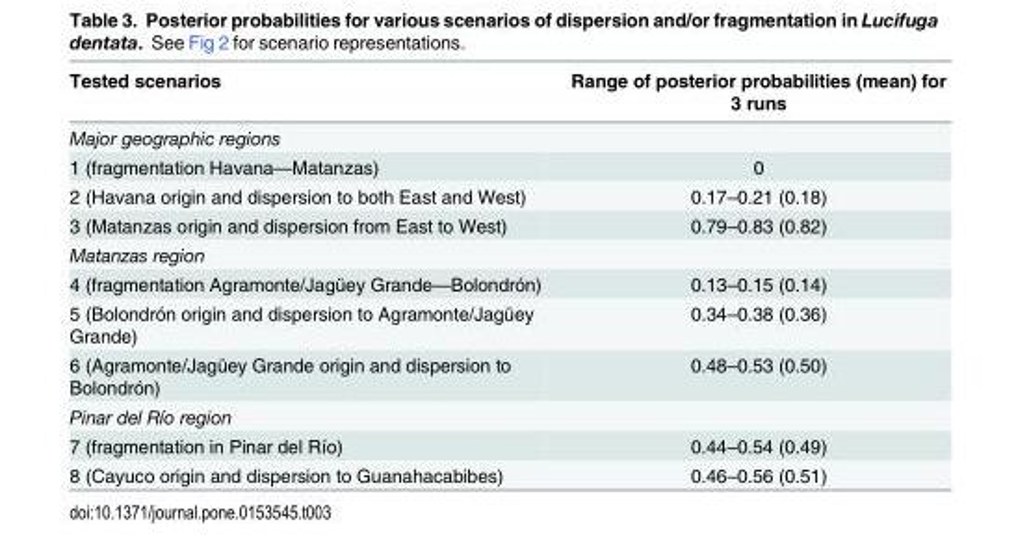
<table><thead><tr><td>Tested scenarios</td><td>Range of posterior probabilities (mean) for 3 runs</td></tr></thead><tbody><tr><td colspan="2">Major geographic regions</td></tr><tr><td>1 (fragmentation Havana—Matanzas)</td><td>0</td></tr><tr><td>2 (Havana origin and dispersion to both East and West)</td><td>0.17–0.21 (0.18)</td></tr><tr><td>3 (Matanzas origin and dispersion from East to West)</td><td>0.79–0.83 (0.82)</td></tr><tr><td colspan="2">Matanzas region</td></tr><tr><td>4 (fragmentation Agramonte/Jagüey Grande—Bolondrón)</td><td>0.13–0.15 (0.14)</td></tr><tr><td>5 (Bolondrón origin and dispersion to Agramonte/Jagüey Grande)</td><td>0.34–0.38 (0.36)</td></tr><tr><td>6 (Agramonte/Jagüey Grande origin and dispersion to Bolondrón)</td><td>0.48–0.53 (0.50)</td></tr><tr><td colspan="2">Pinar del Río region</td></tr><tr><td>7 (fragmentation in Pinar del Río)</td><td>0.44–0.54 (0.49)</td></tr><tr><td>8 (Cayuco origin and dispersion to Guanahacabibes)</td><td>0.46–0.56 (0.51)</td></tr></tbody></table>